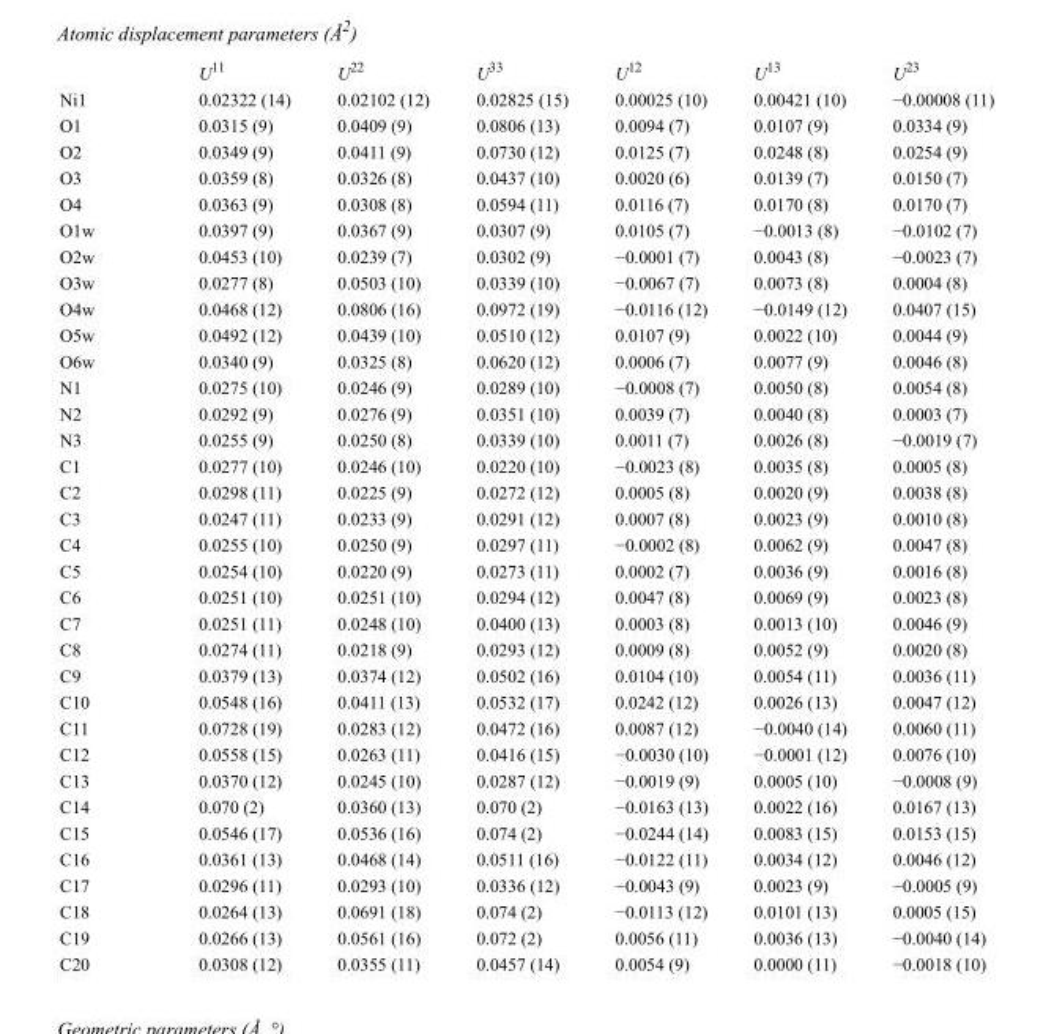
<table><thead><tr><td></td><td>U<sup>11</sup></td><td>U<sup>22</sup></td><td>U<sup>33</sup></td><td>U<sup>12</sup></td><td>U<sup>13</sup></td><td>U<sup>23</sup></td></tr></thead><tbody><tr><td>Ni1</td><td>0.02322 (14)</td><td>0.02102 (12)</td><td>0.02825 (15)</td><td>0.00025 (10)</td><td>0.00421 (10)</td><td>−0.00008 (11)</td></tr><tr><td>O1</td><td>0.0315 (9)</td><td>0.0409 (9)</td><td>0.0806 (13)</td><td>0.0094 (7)</td><td>0.0107 (9)</td><td>0.0334 (9)</td></tr><tr><td>O2</td><td>0.0349 (9)</td><td>0.0411 (9)</td><td>0.0730 (12)</td><td>0.0125 (7)</td><td>0.0248 (8)</td><td>0.0254 (9)</td></tr><tr><td>O3</td><td>0.0359 (8)</td><td>0.0326 (8)</td><td>0.0437 (10)</td><td>0.0020 (6)</td><td>0.0139 (7)</td><td>0.0150 (7)</td></tr><tr><td>O4</td><td>0.0363 (9)</td><td>0.0308 (8)</td><td>0.0594 (11)</td><td>0.0116 (7)</td><td>0.0170 (8)</td><td>0.0170 (7)</td></tr><tr><td>O1w</td><td>0.0397 (9)</td><td>0.0367 (9)</td><td>0.0307 (9)</td><td>0.0105 (7)</td><td>−0.0013 (8)</td><td>−0.0102 (7)</td></tr><tr><td>O2w</td><td>0.0453 (10)</td><td>0.0239 (7)</td><td>0.0302 (9)</td><td>−0.0001 (7)</td><td>0.0043 (8)</td><td>−0.0023 (7)</td></tr><tr><td>O3w</td><td>0.0277 (8)</td><td>0.0503 (10)</td><td>0.0339 (10)</td><td>−0.0067 (7)</td><td>0.0073 (8)</td><td>0.0004 (8)</td></tr><tr><td>O4w</td><td>0.0468 (12)</td><td>0.0806 (16)</td><td>0.0972 (19)</td><td>−0.0116 (12)</td><td>−0.0149 (12)</td><td>0.0407 (15)</td></tr><tr><td>O5w</td><td>0.0492 (12)</td><td>0.0439 (10)</td><td>0.0510 (12)</td><td>0.0107 (9)</td><td>0.0022 (10)</td><td>0.0044 (9)</td></tr><tr><td>O6w</td><td>0.0340 (9)</td><td>0.0325 (8)</td><td>0.0620 (12)</td><td>0.0006 (7)</td><td>0.0077 (9)</td><td>0.0046 (8)</td></tr><tr><td>N1</td><td>0.0275 (10)</td><td>0.0246 (9)</td><td>0.0289 (10)</td><td>−0.0008 (7)</td><td>0.0050 (8)</td><td>0.0054 (8)</td></tr><tr><td>N2</td><td>0.0292 (9)</td><td>0.0276 (9)</td><td>0.0351 (10)</td><td>0.0039 (7)</td><td>0.0040 (8)</td><td>0.0003 (7)</td></tr><tr><td>N3</td><td>0.0255 (9)</td><td>0.0250 (8)</td><td>0.0339 (10)</td><td>0.0011 (7)</td><td>0.0026 (8)</td><td>−0.0019 (7)</td></tr><tr><td>C1</td><td>0.0277 (10)</td><td>0.0246 (10)</td><td>0.0220 (10)</td><td>−0.0023 (8)</td><td>0.0035 (8)</td><td>0.0005 (8)</td></tr><tr><td>C2</td><td>0.0298 (11)</td><td>0.0225 (9)</td><td>0.0272 (12)</td><td>0.0005 (8)</td><td>0.0020 (9)</td><td>0.0038 (8)</td></tr><tr><td>C3</td><td>0.0247 (11)</td><td>0.0233 (9)</td><td>0.0291 (12)</td><td>0.0007 (8)</td><td>0.0023 (9)</td><td>0.0010 (8)</td></tr><tr><td>C4</td><td>0.0255 (10)</td><td>0.0250 (9)</td><td>0.0297 (11)</td><td>−0.0002 (8)</td><td>0.0062 (9)</td><td>0.0047 (8)</td></tr><tr><td>C5</td><td>0.0254 (10)</td><td>0.0220 (9)</td><td>0.0273 (11)</td><td>0.0002 (7)</td><td>0.0036 (9)</td><td>0.0016 (8)</td></tr><tr><td>C6</td><td>0.0251 (10)</td><td>0.0251 (10)</td><td>0.0294 (12)</td><td>0.0047 (8)</td><td>0.0069 (9)</td><td>0.0023 (8)</td></tr><tr><td>C7</td><td>0.0251 (11)</td><td>0.0248 (10)</td><td>0.0400 (13)</td><td>0.0003 (8)</td><td>0.0013 (10)</td><td>0.0046 (9)</td></tr><tr><td>C8</td><td>0.0274 (11)</td><td>0.0218 (9)</td><td>0.0293 (12)</td><td>0.0009 (8)</td><td>0.0052 (9)</td><td>0.0020 (8)</td></tr><tr><td>C9</td><td>0.0379 (13)</td><td>0.0374 (12)</td><td>0.0502 (16)</td><td>0.0104 (10)</td><td>0.0054 (11)</td><td>0.0036 (11)</td></tr><tr><td>C10</td><td>0.0548 (16)</td><td>0.0411 (13)</td><td>0.0532 (17)</td><td>0.0242 (12)</td><td>0.0026 (13)</td><td>0.0047 (12)</td></tr><tr><td>C11</td><td>0.0728 (19)</td><td>0.0283 (12)</td><td>0.0472 (16)</td><td>0.0087 (12)</td><td>−0.0040 (14)</td><td>0.0060 (11)</td></tr><tr><td>C12</td><td>0.0558 (15)</td><td>0.0263 (11)</td><td>0.0416 (15)</td><td>−0.0030 (10)</td><td>−0.0001 (12)</td><td>0.0076 (10)</td></tr><tr><td>C13</td><td>0.0370 (12)</td><td>0.0245 (10)</td><td>0.0287 (12)</td><td>−0.0019 (9)</td><td>0.0005 (10)</td><td>−0.0008 (9)</td></tr><tr><td>C14</td><td>0.070 (2)</td><td>0.0360 (13)</td><td>0.070 (2)</td><td>−0.0163 (13)</td><td>0.0022 (16)</td><td>0.0167 (13)</td></tr><tr><td>C15</td><td>0.0546 (17)</td><td>0.0536 (16)</td><td>0.074 (2)</td><td>−0.0244 (14)</td><td>0.0083 (15)</td><td>0.0153 (15)</td></tr><tr><td>C16</td><td>0.0361 (13)</td><td>0.0468 (14)</td><td>0.0511 (16)</td><td>−0.0122 (11)</td><td>0.0034 (12)</td><td>0.0046 (12)</td></tr><tr><td>C17</td><td>0.0296 (11)</td><td>0.0293 (10)</td><td>0.0336 (12)</td><td>−0.0043 (9)</td><td>0.0023 (9)</td><td>−0.0005 (9)</td></tr><tr><td>C18</td><td>0.0264 (13)</td><td>0.0691 (18)</td><td>0.074 (2)</td><td>−0.0113 (12)</td><td>0.0101 (13)</td><td>0.0005 (15)</td></tr><tr><td>C19</td><td>0.0266 (13)</td><td>0.0561 (16)</td><td>0.072 (2)</td><td>0.0056 (11)</td><td>0.0036 (13)</td><td>−0.0040 (14)</td></tr><tr><td>C20</td><td>0.0308 (12)</td><td>0.0355 (11)</td><td>0.0457 (14)</td><td>0.0054 (9)</td><td>0.0000 (11)</td><td>−0.0018 (10)</td></tr></tbody></table>